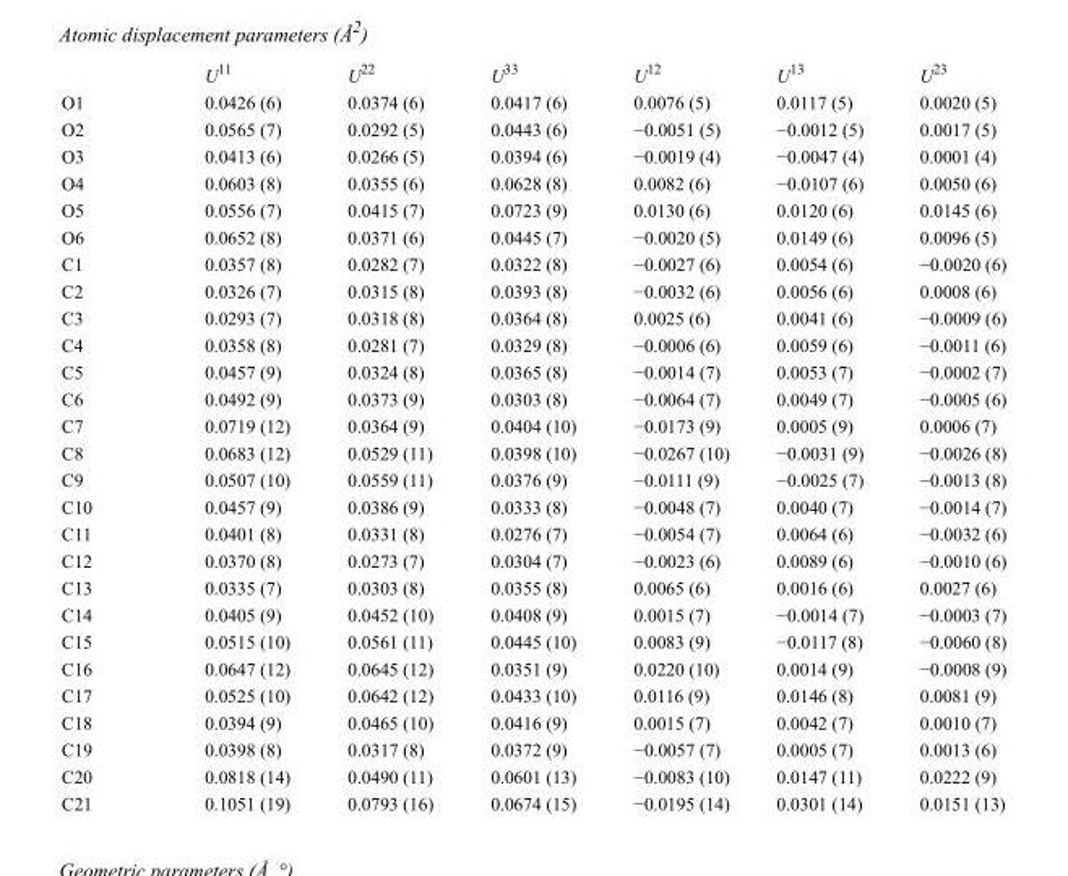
<table><thead><tr><td></td><td>U<sup>11</sup></td><td>U<sup>22</sup></td><td>U<sup>33</sup></td><td>U<sup>12</sup></td><td>U<sup>13</sup></td><td>U<sup>23</sup></td></tr></thead><tbody><tr><td>O1</td><td>0.0426 (6)</td><td>0.0374 (6)</td><td>0.0417 (6)</td><td>0.0076 (5)</td><td>0.0117 (5)</td><td>0.0020 (5)</td></tr><tr><td>O2</td><td>0.0565 (7)</td><td>0.0292 (5)</td><td>0.0443 (6)</td><td>−0.0051 (5)</td><td>−0.0012 (5)</td><td>0.0017 (5)</td></tr><tr><td>O3</td><td>0.0413 (6)</td><td>0.0266 (5)</td><td>0.0394 (6)</td><td>−0.0019 (4)</td><td>−0.0047 (4)</td><td>0.0001 (4)</td></tr><tr><td>O4</td><td>0.0603 (8)</td><td>0.0355 (6)</td><td>0.0628 (8)</td><td>0.0082 (6)</td><td>−0.0107 (6)</td><td>0.0050 (6)</td></tr><tr><td>O5</td><td>0.0556 (7)</td><td>0.0415 (7)</td><td>0.0723 (9)</td><td>0.0130 (6)</td><td>0.0120 (6)</td><td>0.0145 (6)</td></tr><tr><td>O6</td><td>0.0652 (8)</td><td>0.0371 (6)</td><td>0.0445 (7)</td><td>−0.0020 (5)</td><td>0.0149 (6)</td><td>0.0096 (5)</td></tr><tr><td>C1</td><td>0.0357 (8)</td><td>0.0282 (7)</td><td>0.0322 (8)</td><td>−0.0027 (6)</td><td>0.0054 (6)</td><td>−0.0020 (6)</td></tr><tr><td>C2</td><td>0.0326 (7)</td><td>0.0315 (8)</td><td>0.0393 (8)</td><td>−0.0032 (6)</td><td>0.0056 (6)</td><td>0.0008 (6)</td></tr><tr><td>C3</td><td>0.0293 (7)</td><td>0.0318 (8)</td><td>0.0364 (8)</td><td>0.0025 (6)</td><td>0.0041 (6)</td><td>−0.0009 (6)</td></tr><tr><td>C4</td><td>0.0358 (8)</td><td>0.0281 (7)</td><td>0.0329 (8)</td><td>−0.0006 (6)</td><td>0.0059 (6)</td><td>−0.0011 (6)</td></tr><tr><td>C5</td><td>0.0457 (9)</td><td>0.0324 (8)</td><td>0.0365 (8)</td><td>−0.0014 (7)</td><td>0.0053 (7)</td><td>−0.0002 (7)</td></tr><tr><td>C6</td><td>0.0492 (9)</td><td>0.0373 (9)</td><td>0.0303 (8)</td><td>−0.0064 (7)</td><td>0.0049 (7)</td><td>−0.0005 (6)</td></tr><tr><td>C7</td><td>0.0719 (12)</td><td>0.0364 (9)</td><td>0.0404 (10)</td><td>−0.0173 (9)</td><td>0.0005 (9)</td><td>0.0006 (7)</td></tr><tr><td>C8</td><td>0.0683 (12)</td><td>0.0529 (11)</td><td>0.0398 (10)</td><td>−0.0267 (10)</td><td>−0.0031 (9)</td><td>−0.0026 (8)</td></tr><tr><td>C9</td><td>0.0507 (10)</td><td>0.0559 (11)</td><td>0.0376 (9)</td><td>−0.0111 (9)</td><td>−0.0025 (7)</td><td>−0.0013 (8)</td></tr><tr><td>C10</td><td>0.0457 (9)</td><td>0.0386 (9)</td><td>0.0333 (8)</td><td>−0.0048 (7)</td><td>0.0040 (7)</td><td>−0.0014 (7)</td></tr><tr><td>C11</td><td>0.0401 (8)</td><td>0.0331 (8)</td><td>0.0276 (7)</td><td>−0.0054 (7)</td><td>0.0064 (6)</td><td>−0.0032 (6)</td></tr><tr><td>C12</td><td>0.0370 (8)</td><td>0.0273 (7)</td><td>0.0304 (7)</td><td>−0.0023 (6)</td><td>0.0089 (6)</td><td>−0.0010 (6)</td></tr><tr><td>C13</td><td>0.0335 (7)</td><td>0.0303 (8)</td><td>0.0355 (8)</td><td>0.0065 (6)</td><td>0.0016 (6)</td><td>0.0027 (6)</td></tr><tr><td>C14</td><td>0.0405 (9)</td><td>0.0452 (10)</td><td>0.0408 (9)</td><td>0.0015 (7)</td><td>−0.0014 (7)</td><td>−0.0003 (7)</td></tr><tr><td>C15</td><td>0.0515 (10)</td><td>0.0561 (11)</td><td>0.0445 (10)</td><td>0.0083 (9)</td><td>−0.0117 (8)</td><td>−0.0060 (8)</td></tr><tr><td>C16</td><td>0.0647 (12)</td><td>0.0645 (12)</td><td>0.0351 (9)</td><td>0.0220 (10)</td><td>0.0014 (9)</td><td>−0.0008 (9)</td></tr><tr><td>C17</td><td>0.0525 (10)</td><td>0.0642 (12)</td><td>0.0433 (10)</td><td>0.0116 (9)</td><td>0.0146 (8)</td><td>0.0081 (9)</td></tr><tr><td>C18</td><td>0.0394 (9)</td><td>0.0465 (10)</td><td>0.0416 (9)</td><td>0.0015 (7)</td><td>0.0042 (7)</td><td>0.0010 (7)</td></tr><tr><td>C19</td><td>0.0398 (8)</td><td>0.0317 (8)</td><td>0.0372 (9)</td><td>−0.0057 (7)</td><td>0.0005 (7)</td><td>0.0013 (6)</td></tr><tr><td>C20</td><td>0.0818 (14)</td><td>0.0490 (11)</td><td>0.0601 (13)</td><td>−0.0083 (10)</td><td>0.0147 (11)</td><td>0.0222 (9)</td></tr><tr><td>C21</td><td>0.1051 (19)</td><td>0.0793 (16)</td><td>0.0674 (15)</td><td>−0.0195 (14)</td><td>0.0301 (14)</td><td>0.0151 (13)</td></tr></tbody></table>